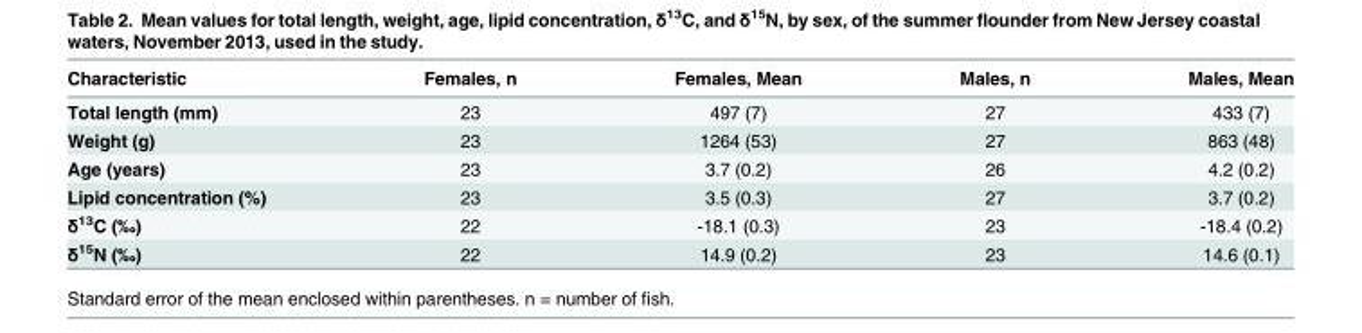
<table><thead><tr><td>Characteristic</td><td>Females, n</td><td>Females, Mean</td><td>Males, n</td><td>Males, Mean</td></tr></thead><tbody><tr><td>Total length (mm)</td><td>23</td><td>497 (7)</td><td>27</td><td>433 (7)</td></tr><tr><td>Weight (g)</td><td>23</td><td>1264 (53)</td><td>27</td><td>863 (48)</td></tr><tr><td>Age (years)</td><td>23</td><td>3.7 (0.2)</td><td>26</td><td>4.2 (0.2)</td></tr><tr><td>Lipid concentration (%)</td><td>23</td><td>3.5 (0.3)</td><td>27</td><td>3.7 (0.2)</td></tr><tr><td>δ<sup>13</sup>C (‰)</td><td>22</td><td>-18.1 (0.3)</td><td>23</td><td>-18.4 (0.2)</td></tr><tr><td>δ<sup>15</sup>N (‰)</td><td>22</td><td>14.9 (0.2)</td><td>23</td><td>14.6 (0.1)</td></tr></tbody></table>